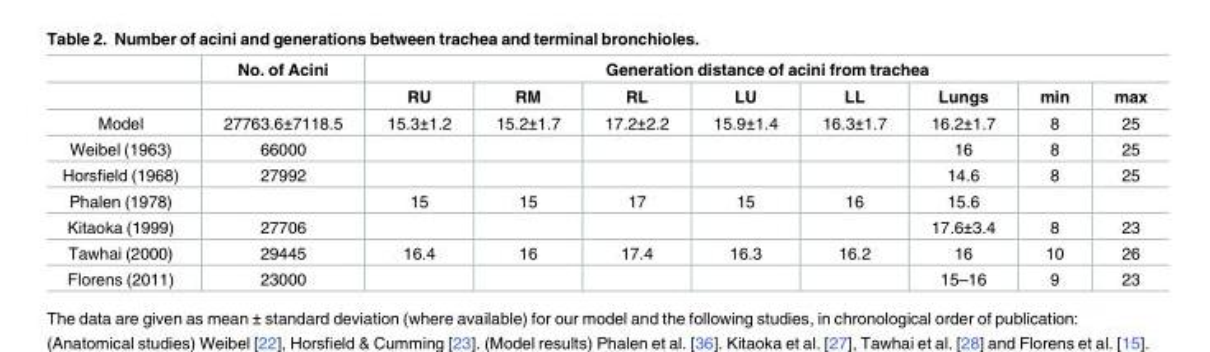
<table><thead><tr><td rowspan="2"></td><td rowspan="2">No. of Acini</td><td colspan="8">Generation distance of acini from trachea</td></tr><tr><td>RU</td><td>RM</td><td>RL</td><td>LU</td><td>LL</td><td>Lungs</td><td>min</td><td>max</td></tr></thead><tbody><tr><td>Model</td><td>27763.6±7118.5</td><td>15.3±1.2</td><td>15.2±1.7</td><td>17.2±2.2</td><td>15.9±1.4</td><td>16.3±1.7</td><td>16.2±1.7</td><td>8</td><td>25</td></tr><tr><td>Weibel (1963)</td><td>66000</td><td></td><td></td><td></td><td></td><td></td><td>16</td><td>8</td><td>25</td></tr><tr><td>Horsfield (1968)</td><td>27992</td><td></td><td></td><td></td><td></td><td></td><td>14.6</td><td>8</td><td>25</td></tr><tr><td>Phalen (1978)</td><td></td><td>15</td><td>15</td><td>17</td><td>15</td><td>16</td><td>15.6</td><td></td><td></td></tr><tr><td>Kitaoka (1999)</td><td>27706</td><td></td><td></td><td></td><td></td><td></td><td>17.6±3.4</td><td>8</td><td>23</td></tr><tr><td>Tawhai (2000)</td><td>29445</td><td>16.4</td><td>16</td><td>17.4</td><td>16.3</td><td>16.2</td><td>16</td><td>10</td><td>26</td></tr><tr><td>Florens (2011)</td><td>23000</td><td></td><td></td><td></td><td></td><td></td><td>15–16</td><td>9</td><td>23</td></tr></tbody></table>